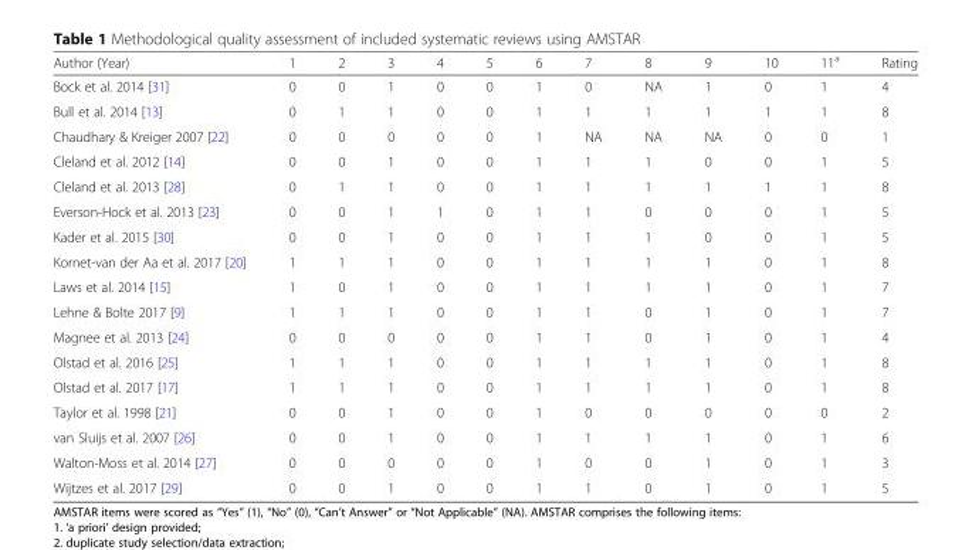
<table><thead><tr><td>Author (Year)</td><td>1</td><td>2</td><td>3</td><td>4</td><td>5</td><td>6</td><td>7</td><td>8</td><td>9</td><td>10</td><td>11<sup>a</sup></td><td>Rating</td></tr></thead><tbody><tr><td>Bock et al. 2014 [31]</td><td>0</td><td>0</td><td>1</td><td>0</td><td>0</td><td>1</td><td>0</td><td>NA</td><td>1</td><td>0</td><td>1</td><td>4</td></tr><tr><td>Bull et al. 2014 [13]</td><td>0</td><td>1</td><td>1</td><td>0</td><td>0</td><td>1</td><td>1</td><td>1</td><td>1</td><td>1</td><td>1</td><td>8</td></tr><tr><td>Chaudhary &amp; Kreiger 2007 [22]</td><td>0</td><td>0</td><td>0</td><td>0</td><td>0</td><td>1</td><td>NA</td><td>NA</td><td>NA</td><td>0</td><td>0</td><td>1</td></tr><tr><td>Cleland et al. 2012 [14]</td><td>0</td><td>0</td><td>1</td><td>0</td><td>0</td><td>1</td><td>1</td><td>1</td><td>0</td><td>0</td><td>1</td><td>5</td></tr><tr><td>Cleland et al. 2013 [28]</td><td>0</td><td>1</td><td>1</td><td>0</td><td>0</td><td>1</td><td>1</td><td>1</td><td>1</td><td>1</td><td>1</td><td>8</td></tr><tr><td>Everson-Hock et al. 2013 [23]</td><td>0</td><td>0</td><td>1</td><td>1</td><td>0</td><td>1</td><td>1</td><td>0</td><td>0</td><td>0</td><td>1</td><td>5</td></tr><tr><td>Kader et al. 2015 [30]</td><td>0</td><td>0</td><td>1</td><td>0</td><td>0</td><td>1</td><td>1</td><td>1</td><td>0</td><td>0</td><td>1</td><td>5</td></tr><tr><td>Kornet-van der Aa et al. 2017 [20]</td><td>1</td><td>1</td><td>1</td><td>0</td><td>0</td><td>1</td><td>1</td><td>1</td><td>1</td><td>0</td><td>1</td><td>8</td></tr><tr><td>Laws et al. 2014 [15]</td><td>1</td><td>0</td><td>1</td><td>0</td><td>0</td><td>1</td><td>1</td><td>1</td><td>1</td><td>0</td><td>1</td><td>7</td></tr><tr><td>Lehne &amp; Bolte 2017 [9]</td><td>1</td><td>1</td><td>1</td><td>0</td><td>0</td><td>1</td><td>1</td><td>0</td><td>1</td><td>0</td><td>1</td><td>7</td></tr><tr><td>Magnee et al. 2013 [24]</td><td>0</td><td>0</td><td>0</td><td>0</td><td>0</td><td>1</td><td>1</td><td>0</td><td>1</td><td>0</td><td>1</td><td>4</td></tr><tr><td>Olstad et al. 2016 [25]</td><td>1</td><td>1</td><td>1</td><td>0</td><td>0</td><td>1</td><td>1</td><td>1</td><td>1</td><td>0</td><td>1</td><td>8</td></tr><tr><td>Olstad et al. 2017 [17]</td><td>1</td><td>1</td><td>1</td><td>0</td><td>0</td><td>1</td><td>1</td><td>1</td><td>1</td><td>0</td><td>1</td><td>8</td></tr><tr><td>Taylor et al. 1998 [21]</td><td>0</td><td>0</td><td>1</td><td>0</td><td>0</td><td>1</td><td>0</td><td>0</td><td>0</td><td>0</td><td>0</td><td>2</td></tr><tr><td>van Sluijs et al. 2007 [26]</td><td>0</td><td>0</td><td>1</td><td>0</td><td>0</td><td>1</td><td>1</td><td>1</td><td>1</td><td>0</td><td>1</td><td>6</td></tr><tr><td>Walton-Moss et al. 2014 [27]</td><td>0</td><td>0</td><td>0</td><td>0</td><td>0</td><td>1</td><td>0</td><td>0</td><td>1</td><td>0</td><td>1</td><td>3</td></tr><tr><td>Wijtzes et al. 2017 [29]</td><td>0</td><td>0</td><td>1</td><td>0</td><td>0</td><td>1</td><td>1</td><td>0</td><td>1</td><td>0</td><td>1</td><td>5</td></tr></tbody></table>